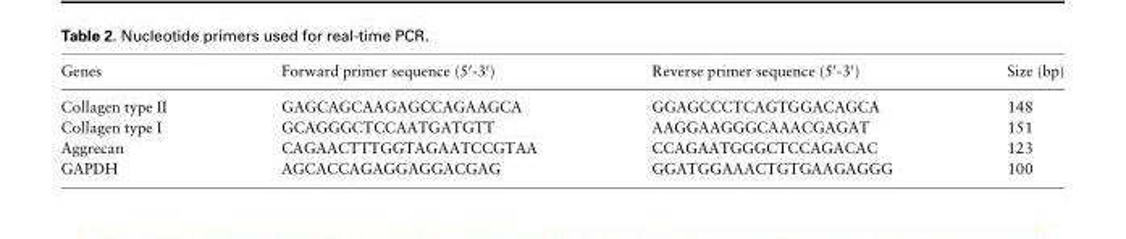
<table><thead><tr><td>Genes</td><td>Forward primer sequence (5′-3′)</td><td>Reverse primer sequence (5′-3′)</td><td>Size (bp)</td></tr></thead><tbody><tr><td>Collagen type II</td><td>GAGCAGCAAGAGCCAGAAGCA</td><td>GGAGCCCTCAGTGGACAGCA</td><td>148</td></tr><tr><td>Collagen type I</td><td>GCAGGGCTCCAATGATGTT</td><td>AAGGAAGGGCAAACGAGAT</td><td>151</td></tr><tr><td>Aggrecan</td><td>CAGAACTTTGGTAGAATCCGTAA</td><td>CCAGAATGGGCTCCAGACAC</td><td>123</td></tr><tr><td>GAPDH</td><td>AGCACCAGAGGAGGACGAG</td><td>GGATGGAAACTGTGAAGAGGG</td><td>100</td></tr></tbody></table>